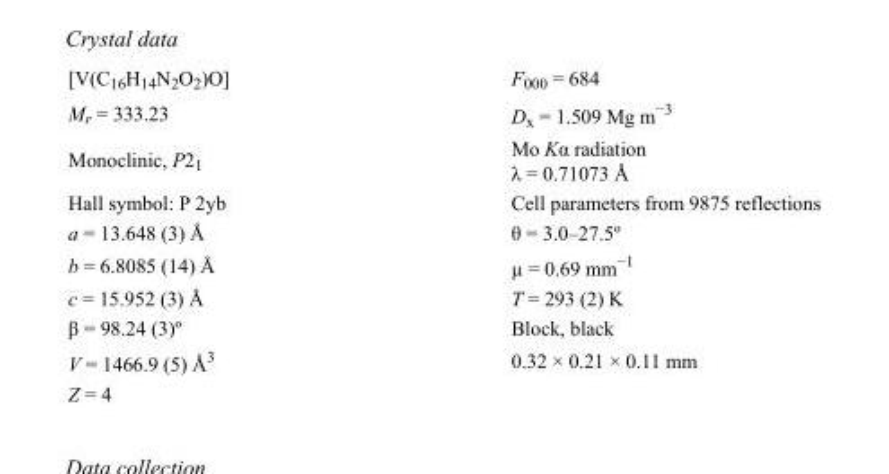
<table><tbody><tr><td>[V(C<sub>16</sub>H<sub>14</sub>N<sub>2</sub>O<sub>2</sub>)O]</td><td>F<sub>000</sub> = 684</td></tr><tr><td>M<sub>r</sub> = 333.23</td><td>D<sub>x</sub> = 1.509 Mg m<sup>−3</sup></td></tr><tr><td>Monoclinic, P2<sub>1</sub></td><td>Mo Kα radiation λ = 0.71073 Å</td></tr><tr><td>Hall symbol: P 2yb</td><td>Cell parameters from 9875 reflections</td></tr><tr><td>a = 13.648 (3) Å</td><td>θ = 3.0–27.5º</td></tr><tr><td>b = 6.8085 (14) Å</td><td>µ = 0.69 mm<sup>−1</sup></td></tr><tr><td>c = 15.952 (3) Å</td><td>T = 293 (2) K</td></tr><tr><td>β = 98.24 (3)º</td><td>Block, black</td></tr><tr><td>V = 1466.9 (5) Å<sup>3</sup></td><td>0.32 × 0.21 × 0.11 mm</td></tr><tr><td>Z = 4</td><td></td></tr></tbody></table>